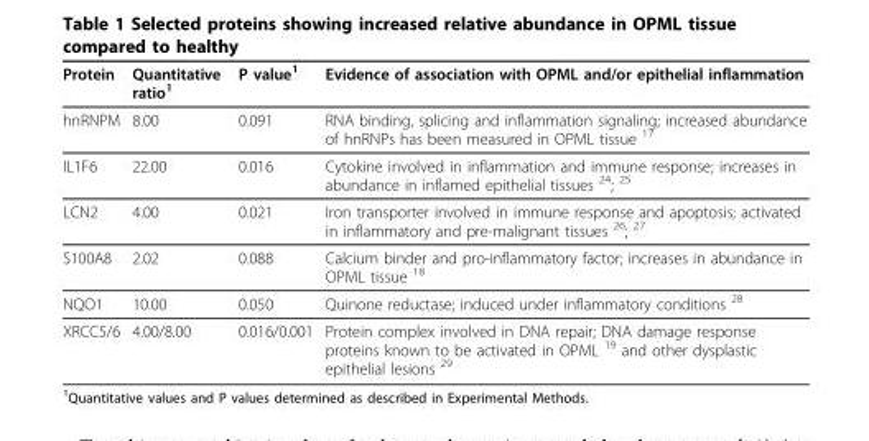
<table><thead><tr><td>Protein</td><td>Quantitative ratio<sup>1</sup></td><td>P value<sup>1</sup></td><td>Evidence of association with OPML and/or epithelial inflammation</td></tr></thead><tbody><tr><td>hnRNPM</td><td>8.00</td><td>0.091</td><td>RNA binding, splicing and inflammation signaling; increased abundance of hnRNPs has been measured in OPML tissue <sup>17</sup></td></tr><tr><td>IL1F6</td><td>22.00</td><td>0.016</td><td>Cytokine involved in inflammation and immune response; increases in abundance in inflamed epithelial tissues <sup>24</sup>; <sup>25</sup></td></tr><tr><td>LCN2</td><td>4.00</td><td>0.021</td><td>Iron transporter involved in immune response and apoptosis; activated in inflammatory and pre-malignant tissues <sup>26</sup>; <sup>27</sup></td></tr><tr><td>S100A8</td><td>2.02</td><td>0.088</td><td>Calcium binder and pro-inflammatory factor; increases in abundance in OPML tissue <sup>18</sup></td></tr><tr><td>NQO1</td><td>10.00</td><td>0.050</td><td>Quinone reductase; induced under inflammatory conditions <sup>28</sup></td></tr><tr><td>XRCC5/6</td><td>4.00/8.00</td><td>0.016/0.001</td><td>Protein complex involved in DNA repair; DNA damage response proteins known to be activated in OPML <sup>19</sup> and other dysplastic epithelial lesions <sup>29</sup></td></tr></tbody></table>